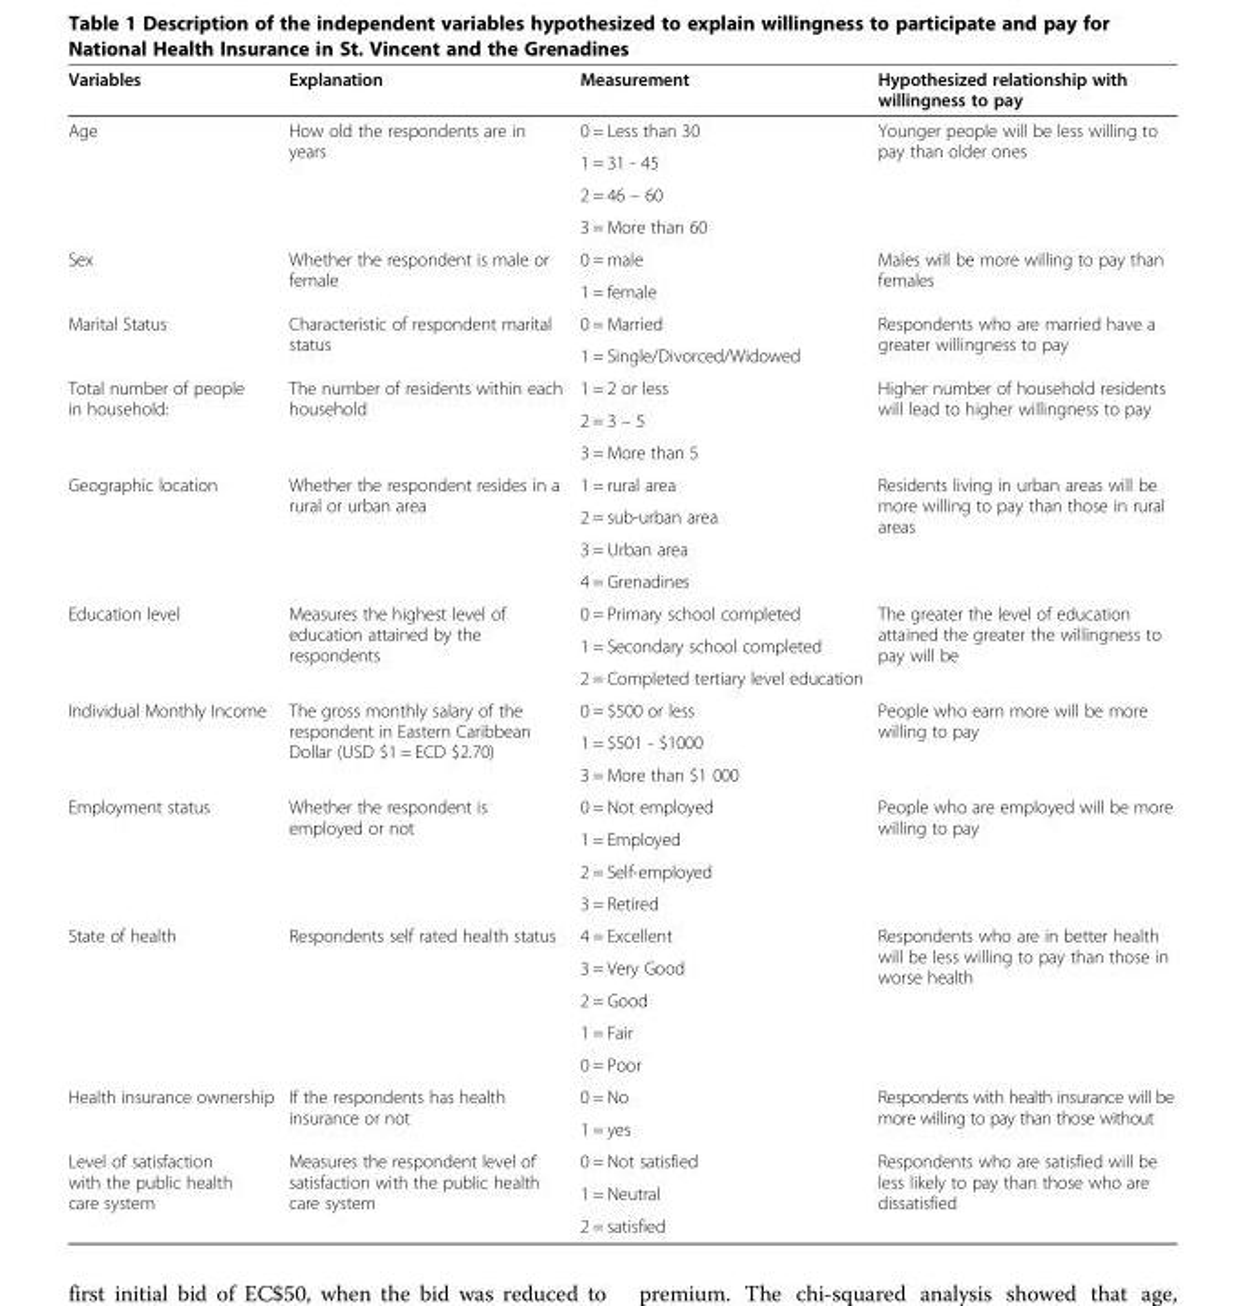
<table><thead><tr><td>Variables</td><td>Explanation</td><td>Measurement</td><td>Hypothesized relationship with willingness to pay</td></tr></thead><tbody><tr><td rowspan="4">Age</td><td rowspan="4">How old the respondents are in years</td><td>0 = Less than 30</td><td rowspan="4">Younger people will be less willing to pay than older ones</td></tr><tr><td>1 = 31 - 45</td></tr><tr><td>2 = 46 – 60</td></tr><tr><td>3 = More than 60</td></tr><tr><td rowspan="2">Sex</td><td rowspan="2">Whether the respondent is male or female</td><td>0 = male</td><td rowspan="2">Males will be more willing to pay than females</td></tr><tr><td>1 = female</td></tr><tr><td rowspan="2">Marital Status</td><td rowspan="2">Characteristic of respondent marital status</td><td>0 = Married</td><td rowspan="2">Respondents who are married have a greater willingness to pay</td></tr><tr><td>1 = Single/Divorced/Widowed</td></tr><tr><td rowspan="3">Total number of people in household:</td><td rowspan="3">The number of residents within each household</td><td>1 = 2 or less</td><td rowspan="3">Higher number of household residents will lead to higher willingness to pay</td></tr><tr><td>2 = 3 – 5</td></tr><tr><td>3 = More than 5</td></tr><tr><td rowspan="4">Geographic location</td><td rowspan="4">Whether the respondent resides in a rural or urban area</td><td>1 = rural area</td><td rowspan="4">Residents living in urban areas will be more willing to pay than those in rural areas</td></tr><tr><td>2 = sub-urban area</td></tr><tr><td>3 = Urban area</td></tr><tr><td>4 = Grenadines</td></tr><tr><td rowspan="3">Education level</td><td rowspan="3">Measures the highest level of education attained by the respondents</td><td>0 = Primary school completed</td><td rowspan="3">The greater the level of education attained the greater the willingness to pay will be</td></tr><tr><td>1 = Secondary school completed</td></tr><tr><td>2 = Completed tertiary level education</td></tr><tr><td rowspan="3">Individual Monthly Income</td><td rowspan="3">The gross monthly salary of the respondent in Eastern Caribbean Dollar (USD $1 = ECD $2.70)</td><td>0 = $500 or less</td><td rowspan="3">People who earn more will be more willing to pay</td></tr><tr><td>1 = $501 - $1000</td></tr><tr><td>3 = More than $1 000</td></tr><tr><td rowspan="4">Employment status</td><td rowspan="4">Whether the respondent is employed or not</td><td>0 = Not employed</td><td rowspan="4">People who are employed will be more willing to pay</td></tr><tr><td>1 = Employed</td></tr><tr><td>2 = Self-employed</td></tr><tr><td>3 = Retired</td></tr><tr><td rowspan="5">State of health</td><td rowspan="5">Respondents self rated health status</td><td>4 = Excellent</td><td rowspan="5">Respondents who are in better health will be less willing to pay than those in worse health</td></tr><tr><td>3 = Very Good</td></tr><tr><td>2 = Good</td></tr><tr><td>1 = Fair</td></tr><tr><td>0 = Poor</td></tr><tr><td rowspan="2">Health insurance ownership</td><td rowspan="2">If the respondents has health insurance or not</td><td>0 = No</td><td rowspan="2">Respondents with health insurance will be more willing to pay than those without</td></tr><tr><td>1 = yes</td></tr><tr><td rowspan="3">Level of satisfaction with the public health care system</td><td rowspan="3">Measures the respondent level of satisfaction with the public health care system</td><td>0 = Not satisfied</td><td rowspan="3">Respondents who are satisfied will be less likely to pay than those who are dissatisfied</td></tr><tr><td>1 = Neutral</td></tr><tr><td>2 = satisfied</td></tr></tbody></table>